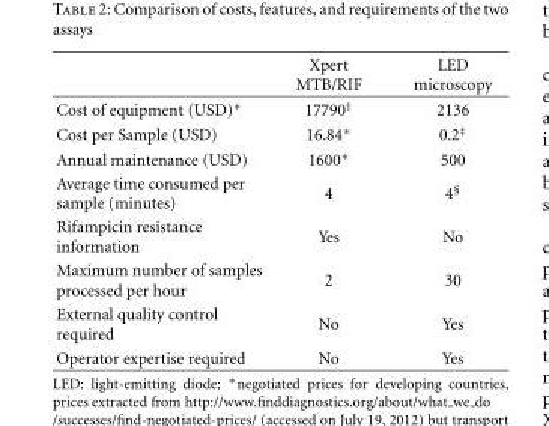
<table><thead><tr><td></td><td>Xpert MTB/RIF</td><td>LED microscopy</td></tr></thead><tbody><tr><td>Cost of equipment (USD)∗</td><td>17790<sup>†</sup></td><td>2136</td></tr><tr><td>Cost per Sample (USD)</td><td>16.84∗</td><td>0.2<sup>‡</sup></td></tr><tr><td>Annual maintenance (USD)</td><td>1600∗</td><td>500</td></tr><tr><td>Average time consumed per sample (minutes)</td><td>4</td><td>4<sup>§</sup></td></tr><tr><td>Rifampicin resistance information</td><td>Yes</td><td>No</td></tr><tr><td>Maximum number of samples processed per hour</td><td>2</td><td>30</td></tr><tr><td>External quality control required</td><td>No</td><td>Yes</td></tr><tr><td>Operator expertise required</td><td>No</td><td>Yes</td></tr></tbody></table>